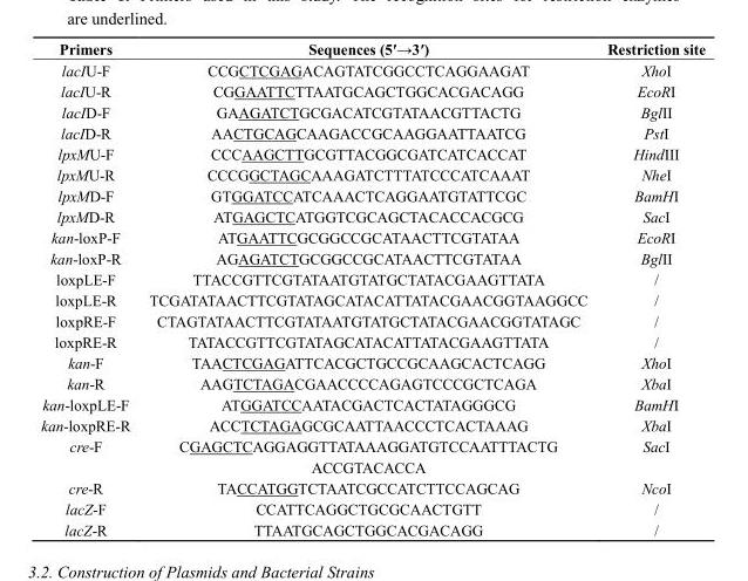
<table><thead><tr><td>Primers</td><td>Sequences (5′→3′)</td><td>Restriction site</td></tr></thead><tbody><tr><td>lacIU-F</td><td>CCGCTCGAGACAGTATCGGCCTCAGGAAGAT</td><td>XhoI</td></tr><tr><td>lacIU-R</td><td>CGGAATTCTTAATGCAGCTGGCACGACAGG</td><td>EcoRI</td></tr><tr><td>lacID-F</td><td>GAAGATCTGCGACATCGTATAACGTTACTG</td><td>BglII</td></tr><tr><td>lacID-R</td><td>AACTGCAGCAAGACCGCAAGGAATTAATCG</td><td>PstI</td></tr><tr><td>lpxMU-F</td><td>CCCAAGCTTGCGTTACGGCGATCATCACCAT</td><td>HindIII</td></tr><tr><td>lpxMU-R</td><td>CCCGGCTAGCAAAGATCTTTATCCCATCAAAT</td><td>NheI</td></tr><tr><td>lpxMD-F</td><td>GTGGATCCATCAAACTCAGGAATGTATTCGC</td><td>BamHI</td></tr><tr><td>lpxMD-R</td><td>ATGAGCTCATGGTCGCAGCTACACCACGCG</td><td>SacI</td></tr><tr><td>kan-loxP-F</td><td>ATGAATTCGCGGCCGCATAACTTCGTATAA</td><td>EcoRI</td></tr><tr><td>kan-loxP-R</td><td>AGAGATCTGCGGCCGCATAACTTCGTATAA</td><td>BglII</td></tr><tr><td>loxpLE-F</td><td>TTACCGTTCGTATAATGTATGCTATACGAAGTTATA</td><td>/</td></tr><tr><td>loxpLE-R</td><td>TCGATATAACTTCGTATAGCATACATTATACGAACGGTAAGGCC</td><td>/</td></tr><tr><td>loxpRE-F</td><td>CTAGTATAACTTCGTATAATGTATGCTATACGAACGGTATAGC</td><td>/</td></tr><tr><td>loxpRE-R</td><td>TATACCGTTCGTATAGCATACATTATACGAAGTTATA</td><td>/</td></tr><tr><td>kan-F</td><td>TAACTCGAGATTCACGCTGCCGCAAGCACTCAGG</td><td>XhoI</td></tr><tr><td>kan-R</td><td>AAGTCTAGACGAACCCCAGAGTCCCGCTCAGA</td><td>XbaI</td></tr><tr><td>kan-loxpLE-F</td><td>ATGGATCCAATACGACTCACTATAGGGCG</td><td>BamHI</td></tr><tr><td>kan-loxpRE-R</td><td>ACCTCTAGAGCGCAATTAACCCTCACTAAAG</td><td>XbaI</td></tr><tr><td rowspan="2">cre-F</td><td>CGAGCTCAGGAGGTTATAAAGGATGTCCAATTTACTG</td><td>SacI</td></tr><tr><td>ACCGTACACCA</td><td></td></tr><tr><td>cre-R</td><td>TACCATGGTCTAATCGCCATCTTCCAGCAG</td><td>NcoI</td></tr><tr><td>lacZ-F</td><td>CCATTCAGGCTGCGCAACTGTT</td><td>/</td></tr><tr><td>lacZ-R</td><td>TTAATGCAGCTGGCACGACAGG</td><td>/</td></tr></tbody></table>